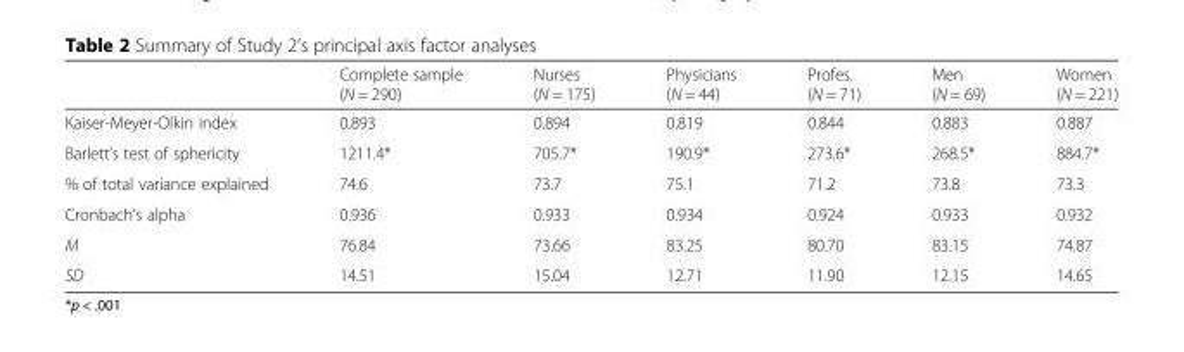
<table><thead><tr><td></td><td>Complete sample (N = 290)</td><td>Nurses (N = 175)</td><td>Physicians (N = 44)</td><td>Profes. (N = 71)</td><td>Men (N = 69)</td><td>Women (N = 221)</td></tr></thead><tbody><tr><td>Kaiser-Meyer-Olkin index</td><td>0.893</td><td>0.894</td><td>0.819</td><td>0.844</td><td>0.883</td><td>0.887</td></tr><tr><td>Barlett’s test of sphericity</td><td>1211.4*</td><td>705.7*</td><td>190.9*</td><td>273.6*</td><td>268.5*</td><td>884.7*</td></tr><tr><td>% of total variance explained</td><td>74.6</td><td>73.7</td><td>75.1</td><td>71.2</td><td>73.8</td><td>73.3</td></tr><tr><td>Cronbach’s alpha</td><td>0.936</td><td>0.933</td><td>0.934</td><td>0.924</td><td>0.933</td><td>0.932</td></tr><tr><td>M</td><td>76.84</td><td>73.66</td><td>83.25</td><td>80.70</td><td>83.15</td><td>74.87</td></tr><tr><td>SD</td><td>14.51</td><td>15.04</td><td>12.71</td><td>11.90</td><td>12.15</td><td>14.65</td></tr></tbody></table>